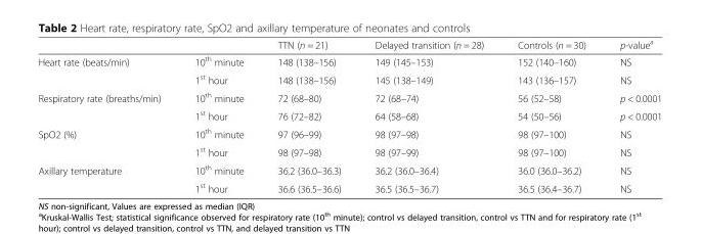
<table><thead><tr><td></td><td></td><td>TTN (n = 21)</td><td>Delayed transition (n = 28)</td><td>Controls (n = 30)</td><td>p-value<sup>a</sup></td></tr></thead><tbody><tr><td rowspan="2">Heart rate (beats/min)</td><td>10<sup>th</sup> minute</td><td>148 (138–156)</td><td>149 (145–153)</td><td>152 (140–160)</td><td>NS</td></tr><tr><td>1<sup>st</sup> hour</td><td>148 (138–156)</td><td>145 (138–149)</td><td>143 (136–157)</td><td>NS</td></tr><tr><td rowspan="2">Respiratory rate (breaths/min)</td><td>10<sup>th</sup> minute</td><td>72 (68–80)</td><td>72 (68–74)</td><td>56 (52–58)</td><td>p &lt; 0.0001</td></tr><tr><td>1<sup>st</sup> hour</td><td>76 (72–82)</td><td>64 (58–68)</td><td>54 (50–56)</td><td>p &lt; 0.0001</td></tr><tr><td rowspan="2">SpO2 (%)</td><td>10<sup>th</sup> minute</td><td>97 (96–99)</td><td>98 (97–98)</td><td>98 (97–100)</td><td>NS</td></tr><tr><td>1<sup>st</sup> hour</td><td>98 (97–98)</td><td>98 (97–99)</td><td>98 (97–100)</td><td>NS</td></tr><tr><td rowspan="2">Axillary temperature</td><td>10<sup>th</sup> minute</td><td>36.2 (36.0–36.3)</td><td>36.2 (36.0–36.4)</td><td>36.0 (36.0–36.2)</td><td>NS</td></tr><tr><td>1<sup>st</sup> hour</td><td>36.6 (36.5–36.6)</td><td>36.5 (36.5–36.7)</td><td>36.5 (36.4–36.7)</td><td>NS</td></tr></tbody></table>